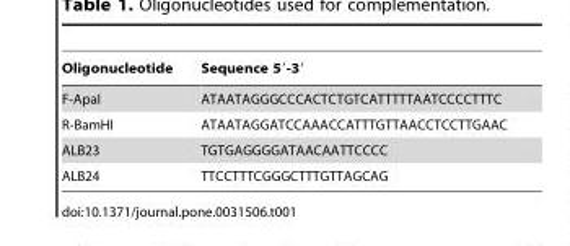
<table><thead><tr><td>Oligonucleotide</td><td>Sequence 5′-3′</td></tr></thead><tbody><tr><td>F-ApaI</td><td>ATAATAGGGCCCACTCTGTCATTTTTAATCCCCTTTC</td></tr><tr><td>R-BamHI</td><td>ATAATAGGATCCAAACCATTTGTTAACCTCCTTGAAC</td></tr><tr><td>ALB23</td><td>TGTGAGGGGATAACAATTCCCC</td></tr><tr><td>ALB24</td><td>TTCCTTTCGGGCTTTGTTAGCAG</td></tr></tbody></table>